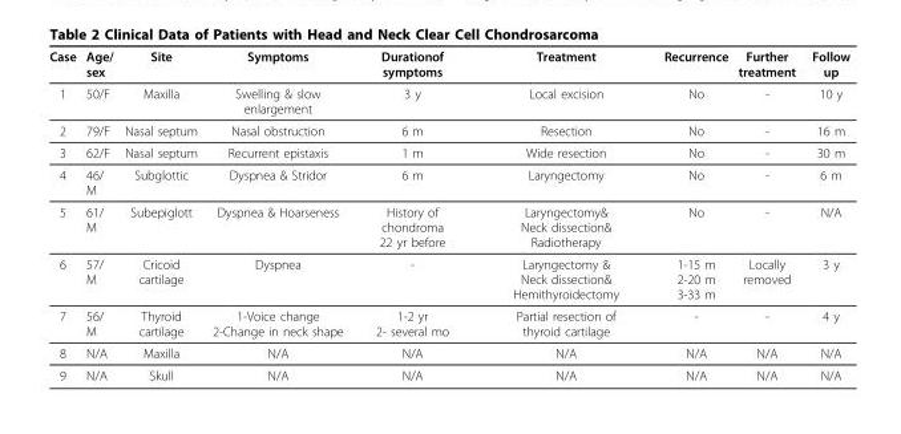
<table><thead><tr><td>Case</td><td>Age/ sex</td><td>Site</td><td>Symptoms</td><td>Durationof symptoms</td><td>Treatment</td><td>Recurrence</td><td>Further treatment</td><td>Follow up</td></tr></thead><tbody><tr><td>1</td><td>50/F</td><td>Maxilla</td><td>Swelling &amp; slow enlargement</td><td>3 y</td><td>Local excision</td><td>No</td><td>-</td><td>10 y</td></tr><tr><td>2</td><td>79/F</td><td>Nasal septum</td><td>Nasal obstruction</td><td>6 m</td><td>Resection</td><td>No</td><td>-</td><td>16 m</td></tr><tr><td>3</td><td>62/F</td><td>Nasal septum</td><td>Recurrent epistaxis</td><td>1 m</td><td>Wide resection</td><td>No</td><td>-</td><td>30 m</td></tr><tr><td>4</td><td>46/ M</td><td>Subglottic</td><td>Dyspnea &amp; Stridor</td><td>6 m</td><td>Laryngectomy</td><td>No</td><td>-</td><td>6 m</td></tr><tr><td>5</td><td>61/ M</td><td>Subepiglott</td><td>Dyspnea &amp; Hoarseness</td><td>History of chondroma 22 yr before</td><td>Laryngectomy&amp; Neck dissection&amp; Radiotherapy</td><td>No</td><td>-</td><td>N/A</td></tr><tr><td>6</td><td>57/ M</td><td>Cricoid cartilage</td><td>Dyspnea</td><td>-</td><td>Laryngectomy &amp; Neck dissection&amp; Hemithyroidectomy</td><td>1-15 m 2-20 m 3-33 m</td><td>Locally removed</td><td>3 y</td></tr><tr><td>7</td><td>56/ M</td><td>Thyroid cartilage</td><td>1-Voice change 2-Change in neck shape</td><td>1-2 yr 2- several mo</td><td>Partial resection of thyroid cartilage</td><td>-</td><td>-</td><td>4 y</td></tr><tr><td>8</td><td>N/A</td><td>Maxilla</td><td>N/A</td><td>N/A</td><td>N/A</td><td>N/A</td><td>N/A</td><td>N/A</td></tr><tr><td>9</td><td>N/A</td><td>Skull</td><td>N/A</td><td>N/A</td><td>N/A</td><td>N/A</td><td>N/A</td><td>N/A</td></tr></tbody></table>